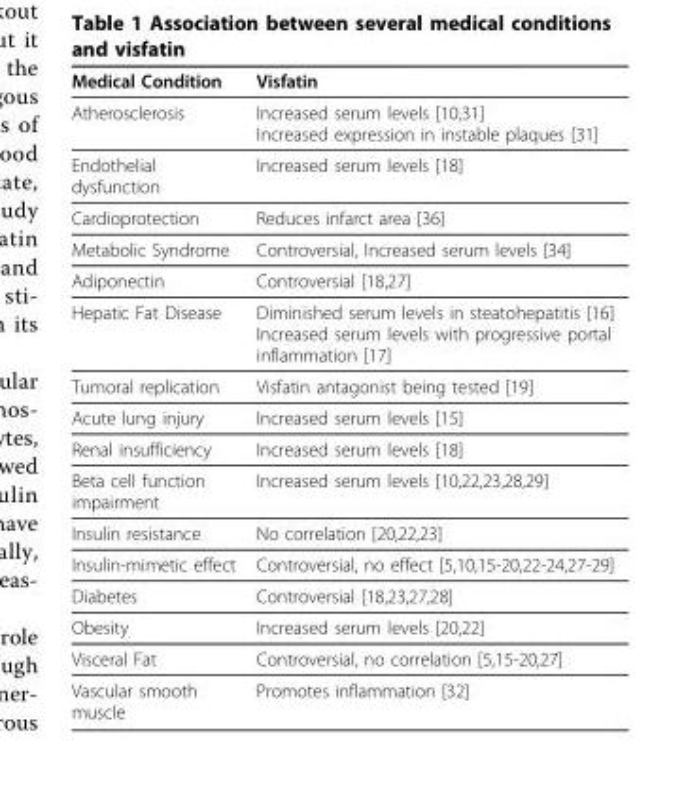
<table><thead><tr><td>Medical Condition</td><td>Visfatin</td></tr></thead><tbody><tr><td>Atherosclerosis</td><td>Increased serum levels [10,31] Increased expression in instable plaques [31]</td></tr><tr><td>Endothelial dysfunction</td><td>Increased serum levels [18]</td></tr><tr><td>Cardioprotection</td><td>Reduces infarct area [36]</td></tr><tr><td>Metabolic Syndrome</td><td>Controversial, Increased serum levels [34]</td></tr><tr><td>Adiponectin</td><td>Controversial [18,27]</td></tr><tr><td>Hepatic Fat Disease</td><td>Diminished serum levels in steatohepatitis [16] Increased serum levels with progressive portal inflammation [17]</td></tr><tr><td>Tumoral replication</td><td>Visfatin antagonist being tested [19]</td></tr><tr><td>Acute lung injury</td><td>Increased serum levels [15]</td></tr><tr><td>Renal insufficiency</td><td>Increased serum levels [18]</td></tr><tr><td>Beta cell function impairment</td><td>Increased serum levels [10,22,23,28,29]</td></tr><tr><td>Insulin resistance</td><td>No correlation [20,22,23]</td></tr><tr><td>Insulin-mimetic effect</td><td>Controversial, no effect [5,10,15-20,22-24,27-29]</td></tr><tr><td>Diabetes</td><td>Controversial [18,23,27,28]</td></tr><tr><td>Obesity</td><td>Increased serum levels [20,22]</td></tr><tr><td>Visceral Fat</td><td>Controversial, no correlation [5,15-20,27]</td></tr><tr><td>Vascular smooth muscle</td><td>Promotes inflammation [32]</td></tr></tbody></table>